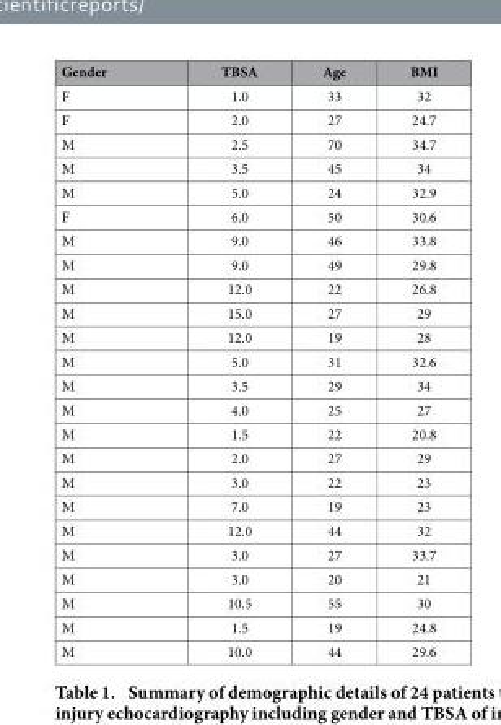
<table><thead><tr><td>Gender</td><td>TBSA</td><td>Age</td><td>BMI</td></tr></thead><tbody><tr><td>F</td><td>1.0</td><td>33</td><td>32</td></tr><tr><td>F</td><td>2.0</td><td>27</td><td>24.7</td></tr><tr><td>M</td><td>2.5</td><td>70</td><td>34.7</td></tr><tr><td>M</td><td>3.5</td><td>45</td><td>34</td></tr><tr><td>M</td><td>5.0</td><td>24</td><td>32.9</td></tr><tr><td>F</td><td>6.0</td><td>50</td><td>30.6</td></tr><tr><td>M</td><td>9.0</td><td>46</td><td>33.8</td></tr><tr><td>M</td><td>9.0</td><td>49</td><td>29.8</td></tr><tr><td>M</td><td>12.0</td><td>22</td><td>26.8</td></tr><tr><td>M</td><td>15.0</td><td>27</td><td>29</td></tr><tr><td>M</td><td>12.0</td><td>19</td><td>28</td></tr><tr><td>M</td><td>5.0</td><td>31</td><td>32.6</td></tr><tr><td>M</td><td>3.5</td><td>29</td><td>34</td></tr><tr><td>M</td><td>4.0</td><td>25</td><td>27</td></tr><tr><td>M</td><td>1.5</td><td>22</td><td>20.8</td></tr><tr><td>M</td><td>2.0</td><td>27</td><td>29</td></tr><tr><td>M</td><td>3.0</td><td>22</td><td>23</td></tr><tr><td>M</td><td>7.0</td><td>19</td><td>23</td></tr><tr><td>M</td><td>12.0</td><td>44</td><td>32</td></tr><tr><td>M</td><td>3.0</td><td>27</td><td>33.7</td></tr><tr><td>M</td><td>3.0</td><td>20</td><td>21</td></tr><tr><td>M</td><td>10.5</td><td>55</td><td>30</td></tr><tr><td>M</td><td>1.5</td><td>19</td><td>24.8</td></tr><tr><td>M</td><td>10.0</td><td>44</td><td>29.6</td></tr></tbody></table>